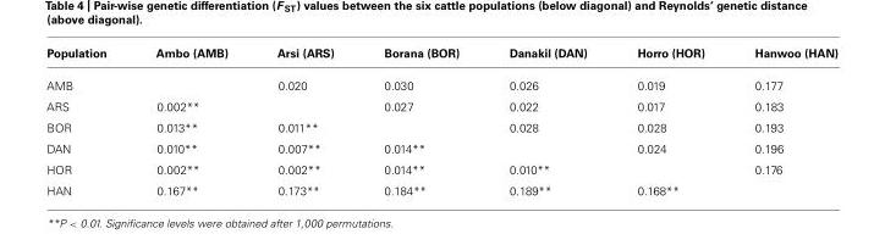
<table><thead><tr><td>Population</td><td>Ambo (AMB)</td><td>Arsi (ARS)</td><td>Borana (BOR)</td><td>Danakil (DAN)</td><td>Horro (HOR)</td><td>Hanwoo (HAN)</td></tr></thead><tbody><tr><td>AMB</td><td></td><td>0.020</td><td>0.030</td><td>0.026</td><td>0.019</td><td>0.177</td></tr><tr><td>ARS</td><td>0.002**</td><td></td><td>0.027</td><td>0.022</td><td>0.017</td><td>0.183</td></tr><tr><td>BOR</td><td>0.013**</td><td>0.011**</td><td></td><td>0.028</td><td>0.028</td><td>0.193</td></tr><tr><td>DAN</td><td>0.010**</td><td>0.007**</td><td>0.014**</td><td></td><td>0.024</td><td>0.196</td></tr><tr><td>HOR</td><td>0.002**</td><td>0.002**</td><td>0.014**</td><td>0.010**</td><td></td><td>0.176</td></tr><tr><td>HAN</td><td>0.167**</td><td>0.173**</td><td>0.184**</td><td>0.189**</td><td>0.168**</td><td></td></tr></tbody></table>